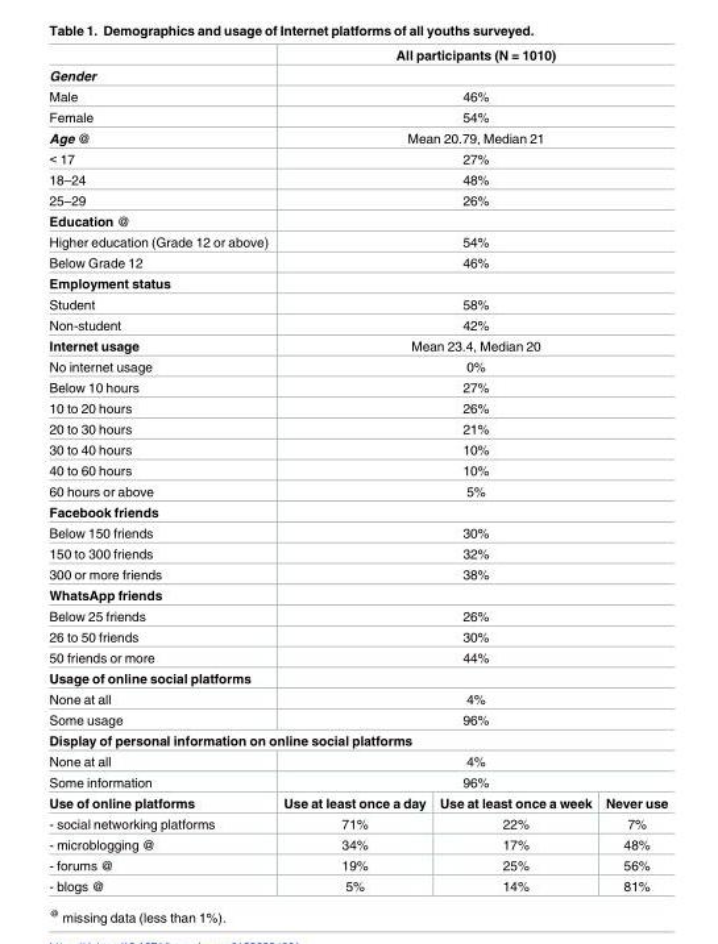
<table><thead><tr><td></td><td colspan="3">All participants (N = 1010)</td></tr></thead><tbody><tr><td colspan="4">Gender</td></tr><tr><td>Male</td><td colspan="3">46%</td></tr><tr><td>Female</td><td colspan="3">54%</td></tr><tr><td>Age @</td><td colspan="3">Mean 20.79, Median 21</td></tr><tr><td>&lt; 17</td><td colspan="3">27%</td></tr><tr><td>18–24</td><td colspan="3">48%</td></tr><tr><td>25–29</td><td colspan="3">26%</td></tr><tr><td colspan="4">Education @</td></tr><tr><td>Higher education (Grade 12 or above)</td><td colspan="3">54%</td></tr><tr><td>Below Grade 12</td><td colspan="3">46%</td></tr><tr><td colspan="4">Employment status</td></tr><tr><td>Student</td><td colspan="3">58%</td></tr><tr><td>Non-student</td><td colspan="3">42%</td></tr><tr><td>Internet usage</td><td colspan="3">Mean 23.4, Median 20</td></tr><tr><td>No internet usage</td><td colspan="3">0%</td></tr><tr><td>Below 10 hours</td><td colspan="3">27%</td></tr><tr><td>10 to 20 hours</td><td colspan="3">26%</td></tr><tr><td>20 to 30 hours</td><td colspan="3">21%</td></tr><tr><td>30 to 40 hours</td><td colspan="3">10%</td></tr><tr><td>40 to 60 hours</td><td colspan="3">10%</td></tr><tr><td>60 hours or above</td><td colspan="3">5%</td></tr><tr><td colspan="4">Facebook friends</td></tr><tr><td>Below 150 friends</td><td colspan="3">30%</td></tr><tr><td>150 to 300 friends</td><td colspan="3">32%</td></tr><tr><td>300 or more friends</td><td colspan="3">38%</td></tr><tr><td colspan="4">WhatsApp friends</td></tr><tr><td>Below 25 friends</td><td colspan="3">26%</td></tr><tr><td>26 to 50 friends</td><td colspan="3">30%</td></tr><tr><td>50 friends or more</td><td colspan="3">44%</td></tr><tr><td colspan="4">Usage of online social platforms</td></tr><tr><td>None at all</td><td colspan="3">4%</td></tr><tr><td>Some usage</td><td colspan="3">96%</td></tr><tr><td colspan="4">Display of personal information on online social platforms</td></tr><tr><td>None at all</td><td colspan="3">4%</td></tr><tr><td>Some information</td><td colspan="3">96%</td></tr><tr><td>Use of online platforms</td><td>Use at least once a day</td><td>Use at least once a week</td><td>Never use</td></tr><tr><td>- social networking platforms</td><td>71%</td><td>22%</td><td>7%</td></tr><tr><td>- microblogging @</td><td>34%</td><td>17%</td><td>48%</td></tr><tr><td>- forums @</td><td>19%</td><td>25%</td><td>56%</td></tr><tr><td>- blogs @</td><td>5%</td><td>14%</td><td>81%</td></tr></tbody></table>